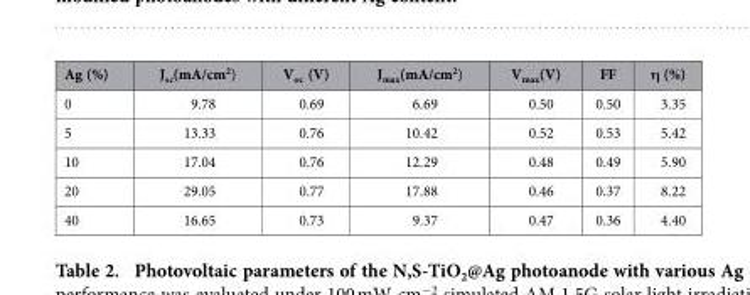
<table><tbody><tr><td>Ag (%)</td><td>J<sub>sc</sub>(mA/cm<sup>2</sup>)</td><td>V<sub>oc</sub> (V)</td><td>J<sub>max</sub>(mA/cm<sup>2</sup>)</td><td>V<sub>max</sub>(V)</td><td>FF</td><td>η (%)</td></tr><tr><td>0</td><td>9.78</td><td>0.69</td><td>6.69</td><td>0.50</td><td>0.50</td><td>3.35</td></tr><tr><td>5</td><td>13.33</td><td>0.76</td><td>10.42</td><td>0.52</td><td>0.53</td><td>5.42</td></tr><tr><td>10</td><td>17.04</td><td>0.76</td><td>12.29</td><td>0.48</td><td>0.49</td><td>5.90</td></tr><tr><td>20</td><td>29.05</td><td>0.77</td><td>17.88</td><td>0.46</td><td>0.37</td><td>8.22</td></tr><tr><td>40</td><td>16.65</td><td>0.73</td><td>9.37</td><td>0.47</td><td>0.36</td><td>4.40</td></tr></tbody></table>